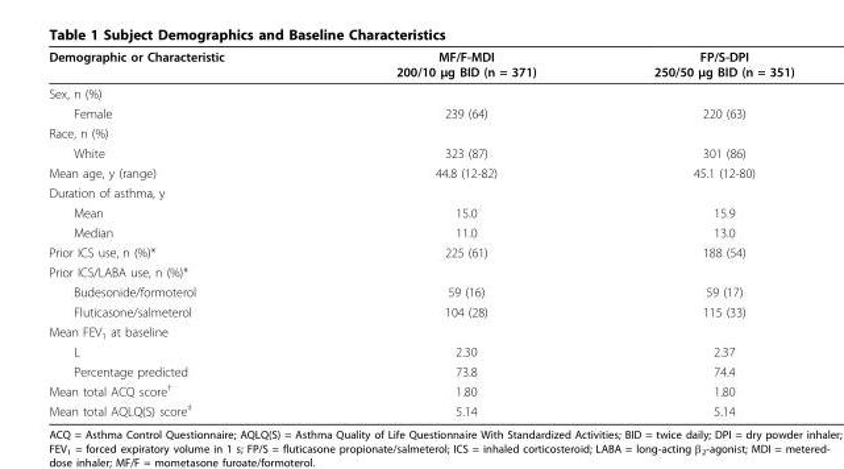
<table><thead><tr><td>Demographic or Characteristic</td><td>MF/F-MDI 200/10 μg BID (n = 371)</td><td>FP/S-DPI 250/50 μg BID (n = 351)</td></tr></thead><tbody><tr><td colspan="3">Sex, n (%)</td></tr><tr><td>Female</td><td>239 (64)</td><td>220 (63)</td></tr><tr><td colspan="3">Race, n (%)</td></tr><tr><td>White</td><td>323 (87)</td><td>301 (86)</td></tr><tr><td>Mean age, y (range)</td><td>44.8 (12-82)</td><td>45.1 (12-80)</td></tr><tr><td colspan="3">Duration of asthma, y</td></tr><tr><td>Mean</td><td>15.0</td><td>15.9</td></tr><tr><td>Median</td><td>11.0</td><td>13.0</td></tr><tr><td>Prior ICS use, n (%)*</td><td>225 (61)</td><td>188 (54)</td></tr><tr><td colspan="3">Prior ICS/LABA use, n (%)*</td></tr><tr><td>Budesonide/formoterol</td><td>59 (16)</td><td>59 (17)</td></tr><tr><td>Fluticasone/salmeterol</td><td>104 (28)</td><td>115 (33)</td></tr><tr><td colspan="3">Mean FEV<sub>1</sub> at baseline</td></tr><tr><td>L</td><td>2.30</td><td>2.37</td></tr><tr><td>Percentage predicted</td><td>73.8</td><td>74.4</td></tr><tr><td>Mean total ACQ score<sup>†</sup></td><td>1.80</td><td>1.80</td></tr><tr><td>Mean total AQLQ(S) score<sup>‡</sup></td><td>5.14</td><td>5.14</td></tr></tbody></table>